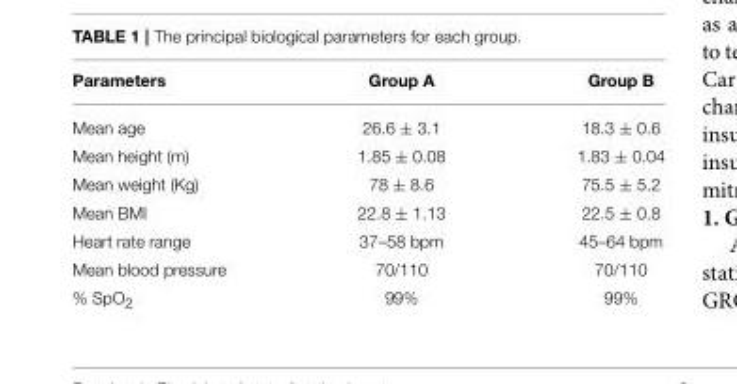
<table><thead><tr><td>Parameters</td><td>Group A</td><td>Group B</td></tr></thead><tbody><tr><td>Mean age</td><td>26.6 ± 3.1</td><td>18.3 ± 0.6</td></tr><tr><td>Mean height (m)</td><td>1.85 ± 0.08</td><td>1.83 ± 0.04</td></tr><tr><td>Mean weight (Kg)</td><td>78 ± 8.6</td><td>75.5 ± 5.2</td></tr><tr><td>Mean BMI</td><td>22.8 ± 1.13</td><td>22.5 ± 0.8</td></tr><tr><td>Heart rate range</td><td>37–58 bpm</td><td>45–64 bpm</td></tr><tr><td>Mean blood pressure</td><td>70/110</td><td>70/110</td></tr><tr><td>% SpO<sub>2</sub></td><td>99%</td><td>99%</td></tr></tbody></table>